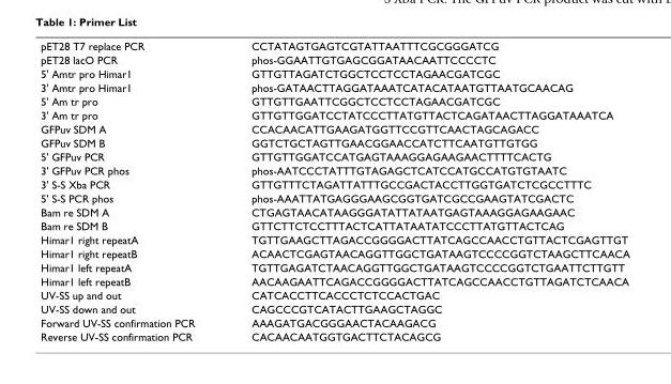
<table><tbody><tr><td>pET28 T7 replace PCR</td><td>CCTATAGTGAGTCGTATTAATTTCGCGGGATCG</td></tr><tr><td>pET28 lacO PCR</td><td>phos-GGAATTGTGAGCGGATAACAATTCCCCTC</td></tr><tr><td>5&#x27; Amtr pro Himar1</td><td>GTTGTTAGATCTGGCTCCTCCTAGAACGATCGC</td></tr><tr><td>3&#x27; Amtr pro Himar1</td><td>phos-GATAACTTAGGATAAATCATACATAATGTTAATGCAACAG</td></tr><tr><td>5&#x27; Am tr pro</td><td>GTTGTTGAATTCGGCTCCTCCTAGAACGATCGC</td></tr><tr><td>3&#x27; Am tr pro</td><td>GTTGTTGGATCCTATCCCTTATGTTACTCAGATAACTTAGGATAAATCA</td></tr><tr><td>GFPuv SDM A</td><td>CCACAACATTGAAGATGGTTCCGTTCAACTAGCAGACC</td></tr><tr><td>GFPuv SDM B</td><td>GGTCTGCTAGTTGAACGGAACCATCTTCAATGTTGTGG</td></tr><tr><td>5&#x27; GFPuv PCR</td><td>GTTGTTGGATCCATGAGTAAAGGAGAAGAACTTTTCACTG</td></tr><tr><td>3&#x27; GFPuv PCR phos</td><td>phos-AATCCCTATTTGTAGAGCTCATCCATGCCATGTGTAATC</td></tr><tr><td>3&#x27; S-S Xba PCR</td><td>GTTGTTTCTAGATTATTTGCCGACTACCTTGGTGATCTCGCCTTTC</td></tr><tr><td>5&#x27; S-S PCR phos</td><td>phos-AAATTATGAGGGAAGCGGTGATCGCCGAAGTATCGACTC</td></tr><tr><td>Bam re SDM A</td><td>CTGAGTAACATAAGGGATATTATAATGAGTAAAGGAGAAGAAC</td></tr><tr><td>Bam re SDM B</td><td>GTTCTTCTCCTTTACTCATTATAATATCCCTTATGTTACTCAG</td></tr><tr><td>Himar1 right repeatA</td><td>TGTTGAAGCTTAGACCGGGGACTTATCAGCCAACCTGTTACTCGAGTTGT</td></tr><tr><td>Himar1 right repeatB</td><td>ACAACTCGAGTAACAGGTTGGCTGATAAGTCCCCGGTCTAAGCTTCAACA</td></tr><tr><td>Himar1 left repeatA</td><td>TGTTGAGATCTAACAGGTTGGCTGATAAGTCCCCGGTCTGAATTCTTGTT</td></tr><tr><td>Himar1 left repeatB</td><td>AACAAGAATTCAGACCGGGGACTTATCAGCCAACCTGTTAGATCTCAACA</td></tr><tr><td>UV-SS up and out</td><td>CATCACCTTCACCCTCTCCACTGAC</td></tr><tr><td>UV-SS down and out</td><td>CAGCCCGTCATACTTGAAGCTAGGC</td></tr><tr><td>Forward UV-SS confirmation PCR</td><td>AAAGATGACGGGAACTACAAGACG</td></tr><tr><td>Reverse UV-SS confirmation PCR</td><td>CACAACAATGGTGACTTCTACAGCG</td></tr></tbody></table>